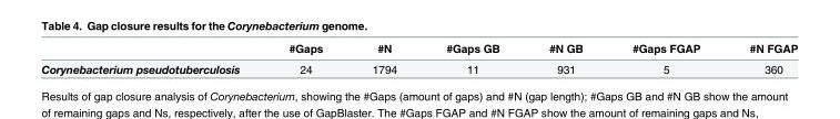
<table><thead><tr><td></td><td>#Gaps</td><td>#N</td><td>#Gaps GB</td><td>#N GB</td><td>#Gaps FGAP</td><td>#N FGAP</td></tr></thead><tbody><tr><td>Corynebacterium pseudotuberculosis</td><td>24</td><td>1794</td><td>11</td><td>931</td><td>5</td><td>360</td></tr></tbody></table>